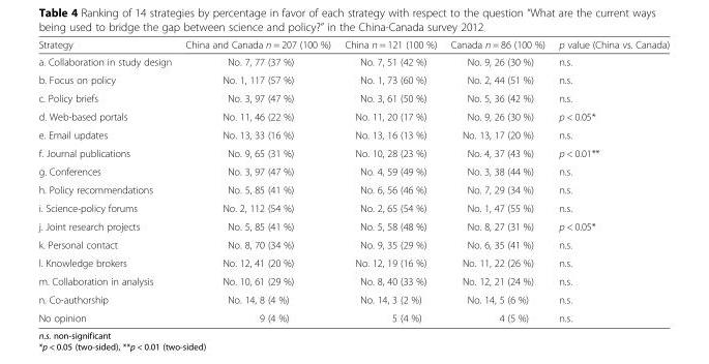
<table><thead><tr><td>Strategy</td><td>China and Canada n = 207 (100 %)</td><td>China n = 121 (100 %)</td><td>Canada n = 86 (100 %)</td><td>p value (China vs. Canada)</td></tr></thead><tbody><tr><td>a. Collaboration in study design</td><td>No. 7, 77 (37 %)</td><td>No. 7, 51 (42 %)</td><td>No. 9, 26 (30 %)</td><td>n.s.</td></tr><tr><td>b. Focus on policy</td><td>No. 1, 117 (57 %)</td><td>No. 1, 73 (60 %)</td><td>No. 2, 44 (51 %)</td><td>n.s.</td></tr><tr><td>c. Policy briefs</td><td>No. 3, 97 (47 %)</td><td>No. 3, 61 (50 %)</td><td>No. 5, 36 (42 %)</td><td>n.s.</td></tr><tr><td>d. Web-based portals</td><td>No. 11, 46 (22 %)</td><td>No. 11, 20 (17 %)</td><td>No. 9, 26 (30 %)</td><td>p &lt; 0.05*</td></tr><tr><td>e. Email updates</td><td>No. 13, 33 (16 %)</td><td>No. 13, 16 (13 %)</td><td>No. 13, 17 (20 %)</td><td>n.s.</td></tr><tr><td>f. Journal publications</td><td>No. 9, 65 (31 %)</td><td>No. 10, 28 (23 %)</td><td>No. 4, 37 (43 %)</td><td>p &lt; 0.01**</td></tr><tr><td>g. Conferences</td><td>No. 3, 97 (47 %)</td><td>No. 4, 59 (49 %)</td><td>No. 3, 38 (44 %)</td><td>n.s.</td></tr><tr><td>h. Policy recommendations</td><td>No. 5, 85 (41 %)</td><td>No. 6, 56 (46 %)</td><td>No. 7, 29 (34 %)</td><td>n.s.</td></tr><tr><td>i. Science-policy forums</td><td>No. 2, 112 (54 %)</td><td>No. 2, 65 (54 %)</td><td>No. 1, 47 (55 %)</td><td>n.s.</td></tr><tr><td>j. Joint research projects</td><td>No. 5, 85 (41 %)</td><td>No. 5, 58 (48 %)</td><td>No. 8, 27 (31 %)</td><td>p &lt; 0.05*</td></tr><tr><td>k. Personal contact</td><td>No. 8, 70 (34 %)</td><td>No. 9, 35 (29 %)</td><td>No. 6, 35 (41 %)</td><td>n.s.</td></tr><tr><td>l. Knowledge brokers</td><td>No. 12, 41 (20 %)</td><td>No. 12, 19 (16 %)</td><td>No. 11, 22 (26 %)</td><td>n.s.</td></tr><tr><td>m. Collaboration in analysis</td><td>No. 10, 61 (29 %)</td><td>No. 8, 40 (33 %)</td><td>No. 12, 21 (24 %)</td><td>n.s.</td></tr><tr><td>n. Co-authorship</td><td>No. 14, 8 (4 %)</td><td>No. 14, 3 (2 %)</td><td>No. 14, 5 (6 %)</td><td>n.s.</td></tr><tr><td>No opinion</td><td>9 (4 %)</td><td>5 (4 %)</td><td>4 (5 %)</td><td>n.s.</td></tr></tbody></table>